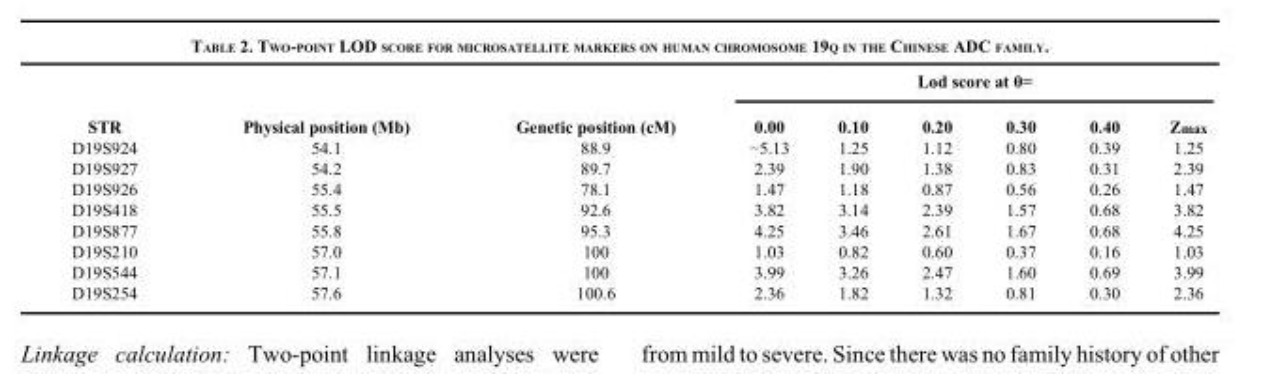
<table><thead><tr><td rowspan="2">STR</td><td rowspan="2">Physical position (Mb)</td><td rowspan="2">Genetic position (cM)</td><td colspan="5">Lod score at θ=</td><td rowspan="2">Z<sub>max</sub></td></tr><tr><td>0.00</td><td>0.10</td><td>0.20</td><td>0.30</td><td>0.40</td></tr></thead><tbody><tr><td>D19S924</td><td>54.1</td><td>88.9</td><td>−5.13</td><td>1.25</td><td>1.12</td><td>0.80</td><td>0.39</td><td>1.25</td></tr><tr><td>D19S927</td><td>54.2</td><td>89.7</td><td>2.39</td><td>1.90</td><td>1.38</td><td>0.83</td><td>0.31</td><td>2.39</td></tr><tr><td>D19S926</td><td>55.4</td><td>78.1</td><td>1.47</td><td>1.18</td><td>0.87</td><td>0.56</td><td>0.26</td><td>1.47</td></tr><tr><td>D19S418</td><td>55.5</td><td>92.6</td><td>3.82</td><td>3.14</td><td>2.39</td><td>1.57</td><td>0.68</td><td>3.82</td></tr><tr><td>D19S877</td><td>55.8</td><td>95.3</td><td>4.25</td><td>3.46</td><td>2.61</td><td>1.67</td><td>0.68</td><td>4.25</td></tr><tr><td>D19S210</td><td>57.0</td><td>100</td><td>1.03</td><td>0.82</td><td>0.60</td><td>0.37</td><td>0.16</td><td>1.03</td></tr><tr><td>D19S544</td><td>57.1</td><td>100</td><td>3.99</td><td>3.26</td><td>2.47</td><td>1.60</td><td>0.69</td><td>3.99</td></tr><tr><td>D19S254</td><td>57.6</td><td>100.6</td><td>2.36</td><td>1.82</td><td>1.32</td><td>0.81</td><td>0.30</td><td>2.36</td></tr></tbody></table>